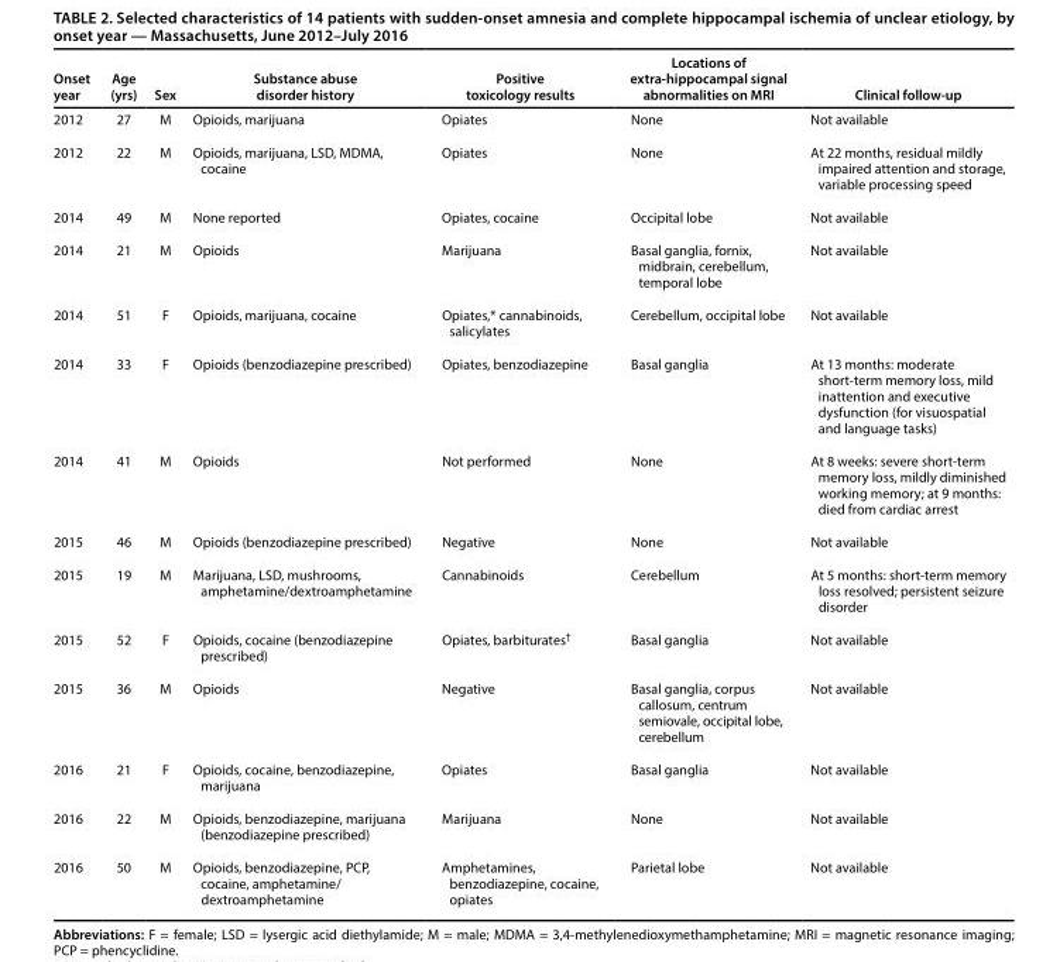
<table><thead><tr><td>Onset year</td><td>Age (yrs)</td><td>Sex</td><td>Substance abuse disorder history</td><td>Positive toxicology results</td><td>Locations of extra-hippocampal signal abnormalities on MRI</td><td>Clinical follow-up</td></tr></thead><tbody><tr><td>2012</td><td>27</td><td>M</td><td>Opioids, marijuana</td><td>Opiates</td><td>None</td><td>Not available</td></tr><tr><td>2012</td><td>22</td><td>M</td><td>Opioids, marijuana, LSD, MDMA, cocaine</td><td>Opiates</td><td>None</td><td>At 22 months, residual mildly impaired attention and storage, variable processing speed</td></tr><tr><td>2014</td><td>49</td><td>M</td><td>None reported</td><td>Opiates, cocaine</td><td>Occipital lobe</td><td>Not available</td></tr><tr><td>2014</td><td>21</td><td>M</td><td>Opioids</td><td>Marijuana</td><td>Basal ganglia, fornix, midbrain, cerebellum, temporal lobe</td><td>Not available</td></tr><tr><td>2014</td><td>51</td><td>F</td><td>Opioids, marijuana, cocaine</td><td>Opiates,* cannabinoids, salicylates</td><td>Cerebellum, occipital lobe</td><td>Not available</td></tr><tr><td>2014</td><td>33</td><td>F</td><td>Opioids (benzodiazepine prescribed)</td><td>Opiates, benzodiazepine</td><td>Basal ganglia</td><td>At 13 months: moderate short-term memory loss, mild inattention and executive dysfunction (for visuospatial and language tasks)</td></tr><tr><td>2014</td><td>41</td><td>M</td><td>Opioids</td><td>Not performed</td><td>None</td><td>At 8 weeks: severe short-term memory loss, mildly diminished working memory; at 9 months: died from cardiac arrest</td></tr><tr><td>2015</td><td>46</td><td>M</td><td>Opioids (benzodiazepine prescribed)</td><td>Negative</td><td>None</td><td>Not available</td></tr><tr><td>2015</td><td>19</td><td>M</td><td>Marijuana, LSD, mushrooms, amphetamine/dextroamphetamine</td><td>Cannabinoids</td><td>Cerebellum</td><td>At 5 months: short-term memory loss resolved; persistent seizure disorder</td></tr><tr><td>2015</td><td>52</td><td>F</td><td>Opioids, cocaine (benzodiazepine prescribed)</td><td>Opiates, barbiturates<sup>†</sup></td><td>Basal ganglia</td><td>Not available</td></tr><tr><td>2015</td><td>36</td><td>M</td><td>Opioids</td><td>Negative</td><td>Basal ganglia, corpus callosum, centrum semiovale, occipital lobe, cerebellum</td><td>Not available</td></tr><tr><td>2016</td><td>21</td><td>F</td><td>Opioids, cocaine, benzodiazepine, marijuana</td><td>Opiates</td><td>Basal ganglia</td><td>Not available</td></tr><tr><td>2016</td><td>22</td><td>M</td><td>Opioids, benzodiazepine, marijuana (benzodiazepine prescribed)</td><td>Marijuana</td><td>None</td><td>Not available</td></tr><tr><td>2016</td><td>50</td><td>M</td><td>Opioids, benzodiazepine, PCP, cocaine, amphetamine/ dextroamphetamine</td><td>Amphetamines, benzodiazepine, cocaine, opiates</td><td>Parietal lobe</td><td>Not available</td></tr></tbody></table>